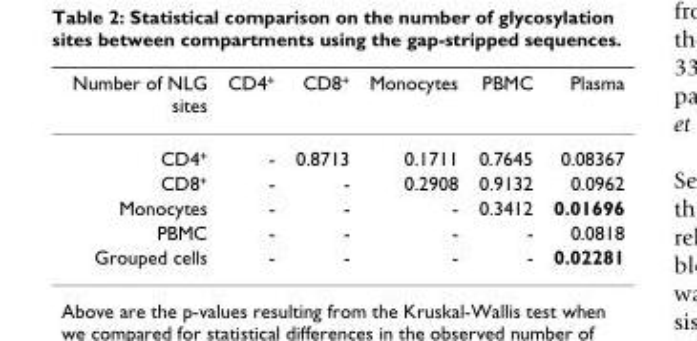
<table><thead><tr><td>Number of NLG sites</td><td>CD4<sup>+</sup></td><td>CD8<sup>+</sup></td><td>Monocytes</td><td>PBMC</td><td>Plasma</td></tr></thead><tbody><tr><td>CD4<sup>+</sup></td><td>-</td><td>0.8713</td><td>0.1711</td><td>0.7645</td><td>0.08367</td></tr><tr><td>CD8<sup>+</sup></td><td>-</td><td>-</td><td>0.2908</td><td>0.9132</td><td>0.0962</td></tr><tr><td>Monocytes</td><td>-</td><td>-</td><td>-</td><td>0.3412</td><td>0.01696</td></tr><tr><td>PBMC</td><td>-</td><td>-</td><td>-</td><td>-</td><td>0.0818</td></tr><tr><td>Grouped cells</td><td>-</td><td>-</td><td>-</td><td>-</td><td>0.02281</td></tr></tbody></table>